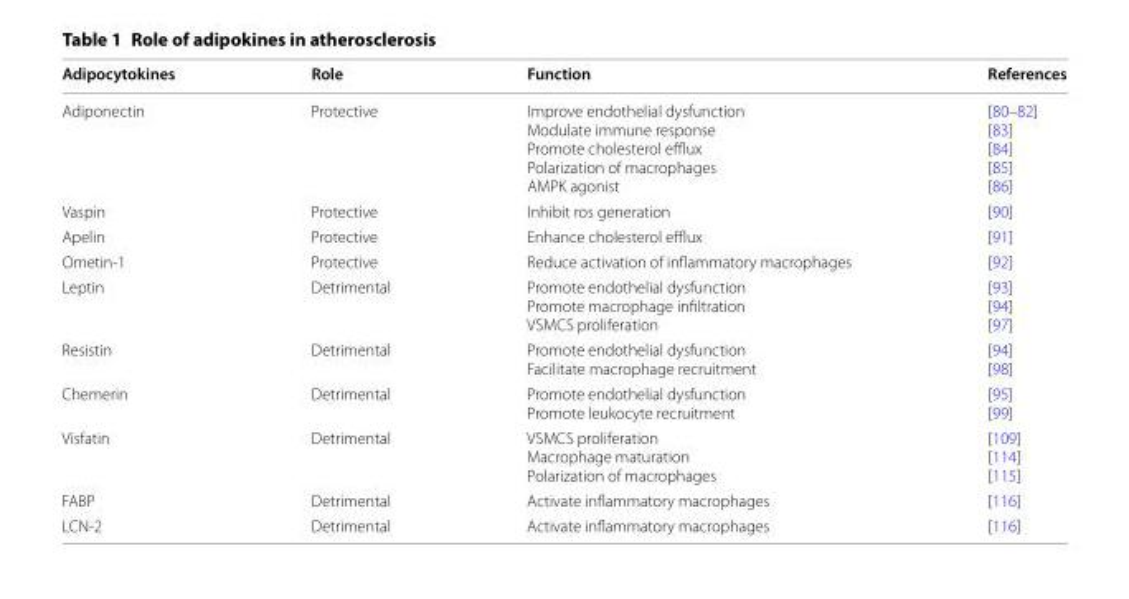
<table><thead><tr><td>Adipocytokines</td><td>Role</td><td>Function</td><td>References</td></tr></thead><tbody><tr><td>Adiponectin</td><td>Protective</td><td>Improve endothelial dysfunction Modulate immune response Promote cholesterol efflux Polarization of macrophages AMPK agonist</td><td>[80–82] [83] [84] [85] [86]</td></tr><tr><td>Vaspin</td><td>Protective</td><td>Inhibit ros generation</td><td>[90]</td></tr><tr><td>Apelin</td><td>Protective</td><td>Enhance cholesterol efflux</td><td>[91]</td></tr><tr><td>Ometin‑1</td><td>Protective</td><td>Reduce activation of inflammatory macrophages</td><td>[92]</td></tr><tr><td>Leptin</td><td>Detrimental</td><td>Promote endothelial dysfunction Promote macrophage infiltration VSMCS proliferation</td><td>[93] [94] [97]</td></tr><tr><td>Resistin</td><td>Detrimental</td><td>Promote endothelial dysfunction Facilitate macrophage recruitment</td><td>[94] [98]</td></tr><tr><td>Chemerin</td><td>Detrimental</td><td>Promote endothelial dysfunction Promote leukocyte recruitment</td><td>[95] [99]</td></tr><tr><td>Visfatin</td><td>Detrimental</td><td>VSMCS proliferation Macrophage maturation Polarization of macrophages</td><td>[109] [114] [115]</td></tr><tr><td>FABP</td><td>Detrimental</td><td>Activate inflammatory macrophages</td><td>[116]</td></tr><tr><td>LCN‑2</td><td>Detrimental</td><td>Activate inflammatory macrophages</td><td>[116]</td></tr></tbody></table>